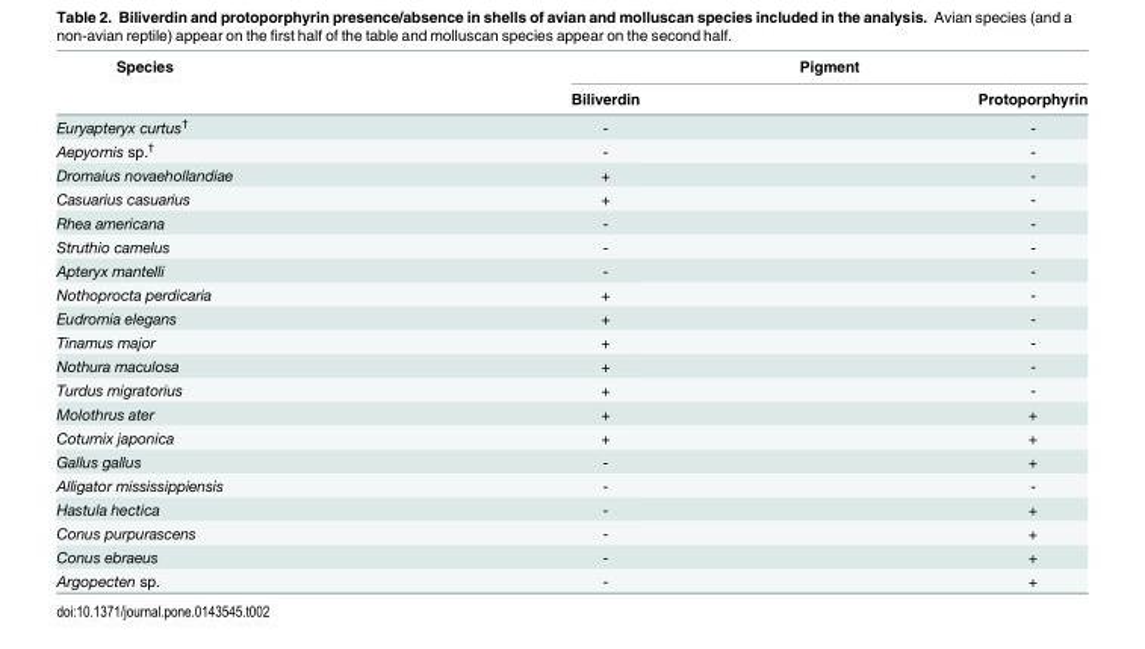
<table><thead><tr><td rowspan="2">Species</td><td colspan="2">Pigment</td></tr><tr><td>Biliverdin</td><td>Protoporphyrin</td></tr></thead><tbody><tr><td>Euryapteryx curtus<sup>†</sup></td><td>-</td><td>-</td></tr><tr><td>Aepyornis sp.<sup>†</sup></td><td>-</td><td>-</td></tr><tr><td>Dromaius novaehollandiae</td><td>+</td><td>-</td></tr><tr><td>Casuarius casuarius</td><td>+</td><td>-</td></tr><tr><td>Rhea americana</td><td>-</td><td>-</td></tr><tr><td>Struthio camelus</td><td>-</td><td>-</td></tr><tr><td>Apteryx mantelli</td><td>-</td><td>-</td></tr><tr><td>Nothoprocta perdicaria</td><td>+</td><td>-</td></tr><tr><td>Eudromia elegans</td><td>+</td><td>-</td></tr><tr><td>Tinamus major</td><td>+</td><td>-</td></tr><tr><td>Nothura maculosa</td><td>+</td><td>-</td></tr><tr><td>Turdus migratorius</td><td>+</td><td>-</td></tr><tr><td>Molothrus ater</td><td>+</td><td>+</td></tr><tr><td>Coturnix japonica</td><td>+</td><td>+</td></tr><tr><td>Gallus gallus</td><td>-</td><td>+</td></tr><tr><td>Alligator mississippiensis</td><td>-</td><td>-</td></tr><tr><td>Hastula hectica</td><td>-</td><td>+</td></tr><tr><td>Conus purpurascens</td><td>-</td><td>+</td></tr><tr><td>Conus ebraeus</td><td>-</td><td>+</td></tr><tr><td>Argopecten sp.</td><td>-</td><td>+</td></tr></tbody></table>